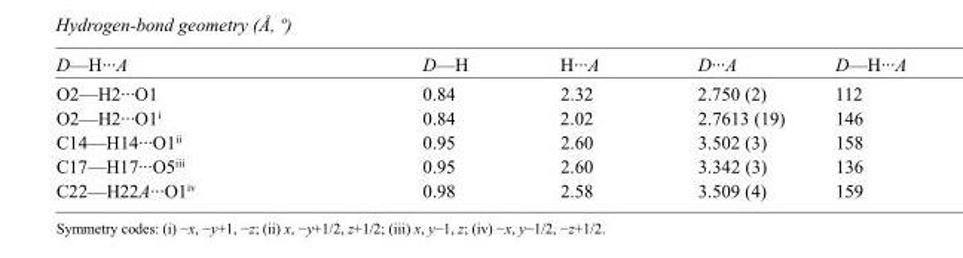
<table><tbody><tr><td>D—H···A</td><td>D—H</td><td>H···A</td><td>D···A</td><td>D—H···A</td></tr><tr><td>O2—H2···O1</td><td>0.84</td><td>2.32</td><td>2.750 (2)</td><td>112</td></tr><tr><td>O2—H2···O1<sup>i</sup></td><td>0.84</td><td>2.02</td><td>2.7613 (19)</td><td>146</td></tr><tr><td>C14—H14···O1<sup>ii</sup></td><td>0.95</td><td>2.60</td><td>3.502 (3)</td><td>158</td></tr><tr><td>C17—H17···O5<sup>iii</sup></td><td>0.95</td><td>2.60</td><td>3.342 (3)</td><td>136</td></tr><tr><td>C22—H22A···O1<sup>iv</sup></td><td>0.98</td><td>2.58</td><td>3.509 (4)</td><td>159</td></tr></tbody></table>